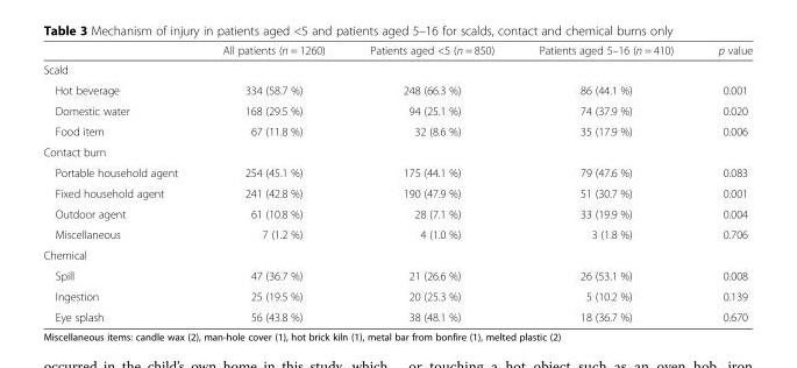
<table><thead><tr><td></td><td>All patients (n = 1260)</td><td>Patients aged &lt;5 (n = 850)</td><td>Patients aged 5–16 (n = 410)</td><td>p value</td></tr></thead><tbody><tr><td colspan="5">Scald</td></tr><tr><td>Hot beverage</td><td>334 (58.7 %)</td><td>248 (66.3 %)</td><td>86 (44.1 %)</td><td>0.001</td></tr><tr><td>Domestic water</td><td>168 (29.5 %)</td><td>94 (25.1 %)</td><td>74 (37.9 %)</td><td>0.020</td></tr><tr><td>Food item</td><td>67 (11.8 %)</td><td>32 (8.6 %)</td><td>35 (17.9 %)</td><td>0.006</td></tr><tr><td colspan="5">Contact burn</td></tr><tr><td>Portable household agent</td><td>254 (45.1 %)</td><td>175 (44.1 %)</td><td>79 (47.6 %)</td><td>0.083</td></tr><tr><td>Fixed household agent</td><td>241 (42.8 %)</td><td>190 (47.9 %)</td><td>51 (30.7 %)</td><td>0.001</td></tr><tr><td>Outdoor agent</td><td>61 (10.8 %)</td><td>28 (7.1 %)</td><td>33 (19.9 %)</td><td>0.004</td></tr><tr><td>Miscellaneous</td><td>7 (1.2 %)</td><td>4 (1.0 %)</td><td>3 (1.8 %)</td><td>0.706</td></tr><tr><td colspan="5">Chemical</td></tr><tr><td>Spill</td><td>47 (36.7 %)</td><td>21 (26.6 %)</td><td>26 (53.1 %)</td><td>0.008</td></tr><tr><td>Ingestion</td><td>25 (19.5 %)</td><td>20 (25.3 %)</td><td>5 (10.2 %)</td><td>0.139</td></tr><tr><td>Eye splash</td><td>56 (43.8 %)</td><td>38 (48.1 %)</td><td>18 (36.7 %)</td><td>0.670</td></tr></tbody></table>